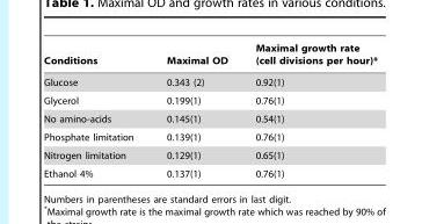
<table><thead><tr><td>Conditions</td><td>Maximal OD</td><td>Maximal growth rate (cell divisions per hour)*</td></tr></thead><tbody><tr><td>Glucose</td><td>0.343 (2)</td><td>0.92(1)</td></tr><tr><td>Glycerol</td><td>0.199(1)</td><td>0.76(1)</td></tr><tr><td>No amino-acids</td><td>0.145(1)</td><td>0.54(1)</td></tr><tr><td>Phosphate limitation</td><td>0.139(1)</td><td>0.76(1)</td></tr><tr><td>Nitrogen limitation</td><td>0.129(1)</td><td>0.65(1)</td></tr><tr><td>Ethanol 4%</td><td>0.137(1)</td><td>0.76(1)</td></tr></tbody></table>